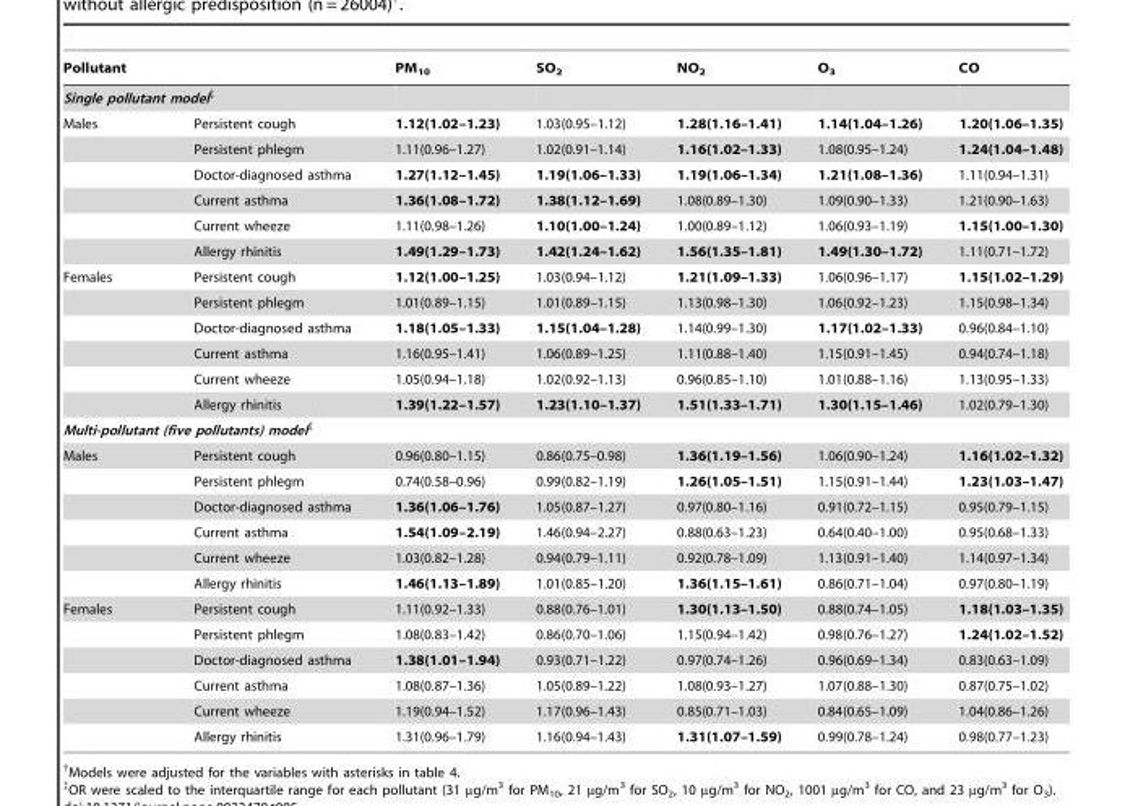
<table><thead><tr><td rowspan="2" colspan="2">Pollutant Single pollutant model‡</td><td rowspan="3">PM<sub>10</sub> 1.12(1.02–1.23)</td><td rowspan="3">SO<sub>2</sub> 1.03(0.95–1.12)</td><td rowspan="3">NO<sub>2</sub> 1.28(1.16–1.41)</td><td rowspan="3">O<sub>3</sub> 1.14(1.04–1.26)</td><td rowspan="3">CO 1.20(1.06–1.35)</td></tr><tr></tr><tr><td>Males</td><td>Persistent cough</td></tr></thead><tbody><tr><td></td><td>Persistent phlegm</td><td>1.11(0.96–1.27)</td><td>1.02(0.91–1.14)</td><td>1.16(1.02–1.33)</td><td>1.08(0.95–1.24)</td><td>1.24(1.04–1.48)</td></tr><tr><td></td><td>Doctor-diagnosed asthma</td><td>1.27(1.12–1.45)</td><td>1.19(1.06–1.33)</td><td>1.19(1.06–1.34)</td><td>1.21(1.08–1.36)</td><td>1.11(0.94–1.31)</td></tr><tr><td></td><td>Current asthma</td><td>1.36(1.08–1.72)</td><td>1.38(1.12–1.69)</td><td>1.08(0.89–1.30)</td><td>1.09(0.90–1.33)</td><td>1.21(0.90–1.63)</td></tr><tr><td></td><td>Current wheeze</td><td>1.11(0.98–1.26)</td><td>1.10(1.00–1.24)</td><td>1.00(0.89–1.12)</td><td>1.06(0.93–1.19)</td><td>1.15(1.00–1.30)</td></tr><tr><td></td><td>Allergy rhinitis</td><td>1.49(1.29–1.73)</td><td>1.42(1.24–1.62)</td><td>1.56(1.35–1.81)</td><td>1.49(1.30–1.72)</td><td>1.11(0.71–1.72)</td></tr><tr><td rowspan="6">Females</td><td>Persistent cough</td><td>1.12(1.00–1.25)</td><td>1.03(0.94–1.12)</td><td>1.21(1.09–1.33)</td><td>1.06(0.96–1.17)</td><td>1.15(1.02–1.29)</td></tr><tr><td>Persistent phlegm</td><td>1.01(0.89–1.15)</td><td>1.01(0.89–1.15)</td><td>1.13(0.98–1.30)</td><td>1.06(0.92–1.23)</td><td>1.15(0.98–1.34)</td></tr><tr><td>Doctor-diagnosed asthma</td><td>1.18(1.05–1.33)</td><td>1.15(1.04–1.28)</td><td>1.14(0.99–1.30)</td><td>1.17(1.02–1.33)</td><td>0.96(0.84–1.10)</td></tr><tr><td>Current asthma</td><td>1.16(0.95–1.41)</td><td>1.06(0.89–1.25)</td><td>1.11(0.88–1.40)</td><td>1.15(0.91–1.45)</td><td>0.94(0.74–1.18)</td></tr><tr><td>Current wheeze</td><td>1.05(0.94–1.18)</td><td>1.02(0.92–1.13)</td><td>0.96(0.85–1.10)</td><td>1.01(0.88–1.16)</td><td>1.13(0.95–1.33)</td></tr><tr><td>Allergy rhinitis</td><td>1.39(1.22–1.57)</td><td>1.23(1.10–1.37)</td><td>1.51(1.33–1.71)</td><td>1.30(1.15–1.46)</td><td>1.02(0.79–1.30)</td></tr><tr><td colspan="7">Multi-pollutant (five pollutants) model‡</td></tr><tr><td rowspan="6">Males</td><td>Persistent cough</td><td>0.96(0.80–1.15)</td><td>0.86(0.75–0.98)</td><td>1.36(1.19–1.56)</td><td>1.06(0.90–1.24)</td><td>1.16(1.02–1.32)</td></tr><tr><td>Persistent phlegm</td><td>0.74(0.58–0.96)</td><td>0.99(0.82–1.19)</td><td>1.26(1.05–1.51)</td><td>1.15(0.91–1.44)</td><td>1.23(1.03–1.47)</td></tr><tr><td>Doctor-diagnosed asthma</td><td>1.36(1.06–1.76)</td><td>1.05(0.87–1.27)</td><td>0.97(0.80–1.16)</td><td>0.91(0.72–1.15)</td><td>0.95(0.79–1.15)</td></tr><tr><td>Current asthma</td><td>1.54(1.09–2.19)</td><td>1.46(0.94–2.27)</td><td>0.88(0.63–1.23)</td><td>0.64(0.40–1.00)</td><td>0.95(0.68–1.33)</td></tr><tr><td>Current wheeze</td><td>1.03(0.82–1.28)</td><td>0.94(0.79–1.11)</td><td>0.92(0.78–1.09)</td><td>1.13(0.91–1.40)</td><td>1.14(0.97–1.34)</td></tr><tr><td>Allergy rhinitis</td><td>1.46(1.13–1.89)</td><td>1.01(0.85–1.20)</td><td>1.36(1.15–1.61)</td><td>0.86(0.71–1.04)</td><td>0.97(0.80–1.19)</td></tr><tr><td rowspan="6">Females</td><td>Persistent cough</td><td>1.11(0.92–1.33)</td><td>0.88(0.76–1.01)</td><td>1.30(1.13–1.50)</td><td>0.88(0.74–1.05)</td><td>1.18(1.03–1.35)</td></tr><tr><td>Persistent phlegm</td><td>1.08(0.83–1.42)</td><td>0.86(0.70–1.06)</td><td>1.15(0.94–1.42)</td><td>0.98(0.76–1.27)</td><td>1.24(1.02–1.52)</td></tr><tr><td>Doctor-diagnosed asthma</td><td>1.38(1.01–1.94)</td><td>0.93(0.71–1.22)</td><td>0.97(0.74–1.26)</td><td>0.96(0.69–1.34)</td><td>0.83(0.63–1.09)</td></tr><tr><td>Current asthma</td><td>1.08(0.87–1.36)</td><td>1.05(0.89–1.22)</td><td>1.08(0.93–1.27)</td><td>1.07(0.88–1.30)</td><td>0.87(0.75–1.02)</td></tr><tr><td>Current wheeze</td><td>1.19(0.94–1.52)</td><td>1.17(0.96–1.43)</td><td>0.85(0.71–1.03)</td><td>0.84(0.65–1.09)</td><td>1.04(0.86–1.26)</td></tr><tr><td>Allergy rhinitis</td><td>1.31(0.96–1.79)</td><td>1.16(0.94–1.43)</td><td>1.31(1.07–1.59)</td><td>0.99(0.78–1.24)</td><td>0.98(0.77–1.23)</td></tr></tbody></table>